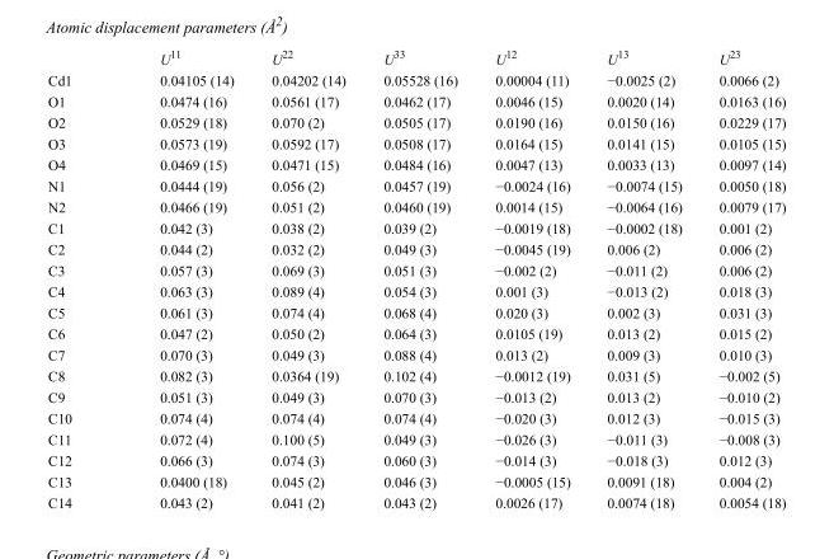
<table><thead><tr><td></td><td>U<sup>11</sup></td><td>U<sup>22</sup></td><td>U<sup>33</sup></td><td>U<sup>12</sup></td><td>U<sup>13</sup></td><td>U<sup>23</sup></td></tr></thead><tbody><tr><td>Cd1</td><td>0.04105 (14)</td><td>0.04202 (14)</td><td>0.05528 (16)</td><td>0.00004 (11)</td><td>−0.0025 (2)</td><td>0.0066 (2)</td></tr><tr><td>O1</td><td>0.0474 (16)</td><td>0.0561 (17)</td><td>0.0462 (17)</td><td>0.0046 (15)</td><td>0.0020 (14)</td><td>0.0163 (16)</td></tr><tr><td>O2</td><td>0.0529 (18)</td><td>0.070 (2)</td><td>0.0505 (17)</td><td>0.0190 (16)</td><td>0.0150 (16)</td><td>0.0229 (17)</td></tr><tr><td>O3</td><td>0.0573 (19)</td><td>0.0592 (17)</td><td>0.0508 (17)</td><td>0.0164 (15)</td><td>0.0141 (15)</td><td>0.0105 (15)</td></tr><tr><td>O4</td><td>0.0469 (15)</td><td>0.0471 (15)</td><td>0.0484 (16)</td><td>0.0047 (13)</td><td>0.0033 (13)</td><td>0.0097 (14)</td></tr><tr><td>N1</td><td>0.0444 (19)</td><td>0.056 (2)</td><td>0.0457 (19)</td><td>−0.0024 (16)</td><td>−0.0074 (15)</td><td>0.0050 (18)</td></tr><tr><td>N2</td><td>0.0466 (19)</td><td>0.051 (2)</td><td>0.0460 (19)</td><td>0.0014 (15)</td><td>−0.0064 (16)</td><td>0.0079 (17)</td></tr><tr><td>C1</td><td>0.042 (3)</td><td>0.038 (2)</td><td>0.039 (2)</td><td>−0.0019 (18)</td><td>−0.0002 (18)</td><td>0.001 (2)</td></tr><tr><td>C2</td><td>0.044 (2)</td><td>0.032 (2)</td><td>0.049 (3)</td><td>−0.0045 (19)</td><td>0.006 (2)</td><td>0.006 (2)</td></tr><tr><td>C3</td><td>0.057 (3)</td><td>0.069 (3)</td><td>0.051 (3)</td><td>−0.002 (2)</td><td>−0.011 (2)</td><td>0.006 (2)</td></tr><tr><td>C4</td><td>0.063 (3)</td><td>0.089 (4)</td><td>0.054 (3)</td><td>0.001 (3)</td><td>−0.013 (2)</td><td>0.018 (3)</td></tr><tr><td>C5</td><td>0.061 (3)</td><td>0.074 (4)</td><td>0.068 (4)</td><td>0.020 (3)</td><td>0.002 (3)</td><td>0.031 (3)</td></tr><tr><td>C6</td><td>0.047 (2)</td><td>0.050 (2)</td><td>0.064 (3)</td><td>0.0105 (19)</td><td>0.013 (2)</td><td>0.015 (2)</td></tr><tr><td>C7</td><td>0.070 (3)</td><td>0.049 (3)</td><td>0.088 (4)</td><td>0.013 (2)</td><td>0.009 (3)</td><td>0.010 (3)</td></tr><tr><td>C8</td><td>0.082 (3)</td><td>0.0364 (19)</td><td>0.102 (4)</td><td>−0.0012 (19)</td><td>0.031 (5)</td><td>−0.002 (5)</td></tr><tr><td>C9</td><td>0.051 (3)</td><td>0.049 (3)</td><td>0.070 (3)</td><td>−0.013 (2)</td><td>0.013 (2)</td><td>−0.010 (2)</td></tr><tr><td>C10</td><td>0.074 (4)</td><td>0.074 (4)</td><td>0.074 (4)</td><td>−0.020 (3)</td><td>0.012 (3)</td><td>−0.015 (3)</td></tr><tr><td>C11</td><td>0.072 (4)</td><td>0.100 (5)</td><td>0.049 (3)</td><td>−0.026 (3)</td><td>−0.011 (3)</td><td>−0.008 (3)</td></tr><tr><td>C12</td><td>0.066 (3)</td><td>0.074 (3)</td><td>0.060 (3)</td><td>−0.014 (3)</td><td>−0.018 (3)</td><td>0.012 (3)</td></tr><tr><td>C13</td><td>0.0400 (18)</td><td>0.045 (2)</td><td>0.046 (3)</td><td>−0.0005 (15)</td><td>0.0091 (18)</td><td>0.004 (2)</td></tr><tr><td>C14</td><td>0.043 (2)</td><td>0.041 (2)</td><td>0.043 (2)</td><td>0.0026 (17)</td><td>0.0074 (18)</td><td>0.0054 (18)</td></tr></tbody></table>